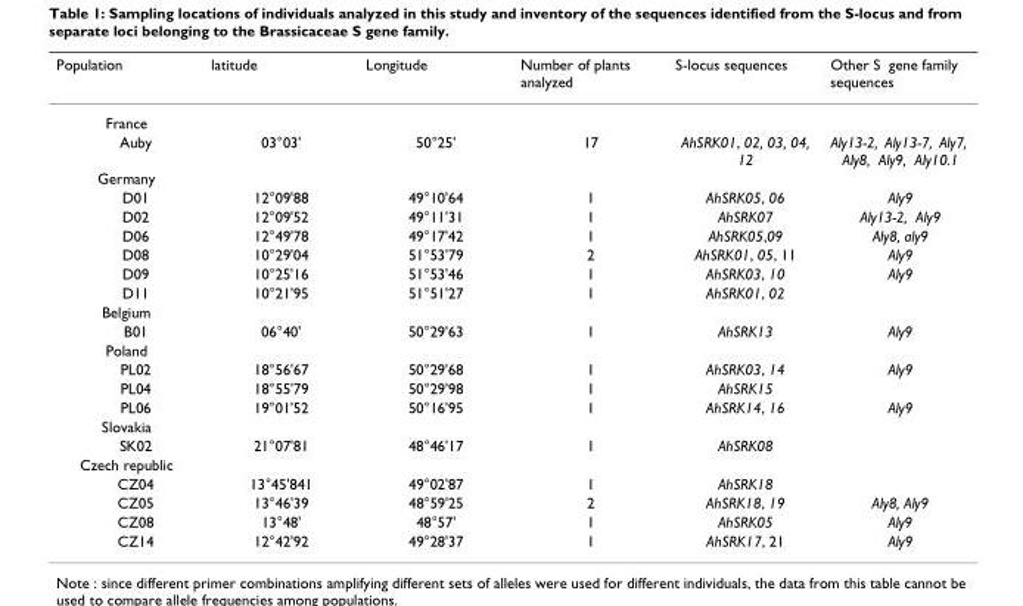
<table><thead><tr><td>Population</td><td>latitude</td><td>Longitude</td><td>Number of plants analyzed</td><td>S-locus sequences</td><td>Other S gene family sequences</td></tr></thead><tbody><tr><td colspan="6">France</td></tr><tr><td>Auby</td><td>03°03&#x27;</td><td>50°25&#x27;</td><td>17</td><td>AhSRK01, 02, 03, 04, 12</td><td>Aly13-2, Aly13-7, Aly7, Aly8, Aly9, Aly10.1</td></tr><tr><td colspan="6">Germany</td></tr><tr><td>D01</td><td>12°09&#x27;88</td><td>49°10&#x27;64</td><td>1</td><td>AhSRK05, 06</td><td>Aly9</td></tr><tr><td>D02</td><td>12°09&#x27;52</td><td>49°11&#x27;31</td><td>1</td><td>AhSRK07</td><td>Aly13-2, Aly9</td></tr><tr><td>D06</td><td>12°49&#x27;78</td><td>49°17&#x27;42</td><td>1</td><td>AhSRK05,09</td><td>Aly8, aly9</td></tr><tr><td>D08</td><td>10°29&#x27;04</td><td>51°53&#x27;79</td><td>2</td><td>AhSRK01, 05, 11</td><td>Aly9</td></tr><tr><td>D09</td><td>10°25&#x27;16</td><td>51°53&#x27;46</td><td>1</td><td>AhSRK03, 10</td><td>Aly9</td></tr><tr><td>D11</td><td>10°21&#x27;95</td><td>51°51&#x27;27</td><td>1</td><td>AhSRK01, 02</td><td></td></tr><tr><td colspan="6">Belgium</td></tr><tr><td>B01</td><td>06°40&#x27;</td><td>50°29&#x27;63</td><td>1</td><td>AhSRK13</td><td>Aly9</td></tr><tr><td colspan="6">Poland</td></tr><tr><td>PL02</td><td>18°56&#x27;67</td><td>50°29&#x27;68</td><td>1</td><td>AhSRK03, 14</td><td>Aly9</td></tr><tr><td>PL04</td><td>18°55&#x27;79</td><td>50°29&#x27;98</td><td>1</td><td>AhSRK15</td><td></td></tr><tr><td>PL06</td><td>19°01&#x27;52</td><td>50°16&#x27;95</td><td>1</td><td>AhSRK14, 16</td><td>Aly9</td></tr><tr><td colspan="6">Slovakia</td></tr><tr><td>SK02</td><td>21°07&#x27;81</td><td>48°46&#x27;17</td><td>1</td><td>AhSRK08</td><td></td></tr><tr><td colspan="6">Czech republic</td></tr><tr><td>CZ04</td><td>13°45&#x27;841</td><td>49°02&#x27;87</td><td>1</td><td>AhSRK18</td><td></td></tr><tr><td>CZ05</td><td>13°46&#x27;39</td><td>48°59&#x27;25</td><td>2</td><td>AhSRK18, 19</td><td>Aly8, Aly9</td></tr><tr><td>CZ08</td><td>13°48&#x27;</td><td>48°57&#x27;</td><td>1</td><td>AhSRK05</td><td>Aly9</td></tr><tr><td>CZ14</td><td>12°42&#x27;92</td><td>49°28&#x27;37</td><td>1</td><td>AhSRK17, 21</td><td>Aly9</td></tr></tbody></table>